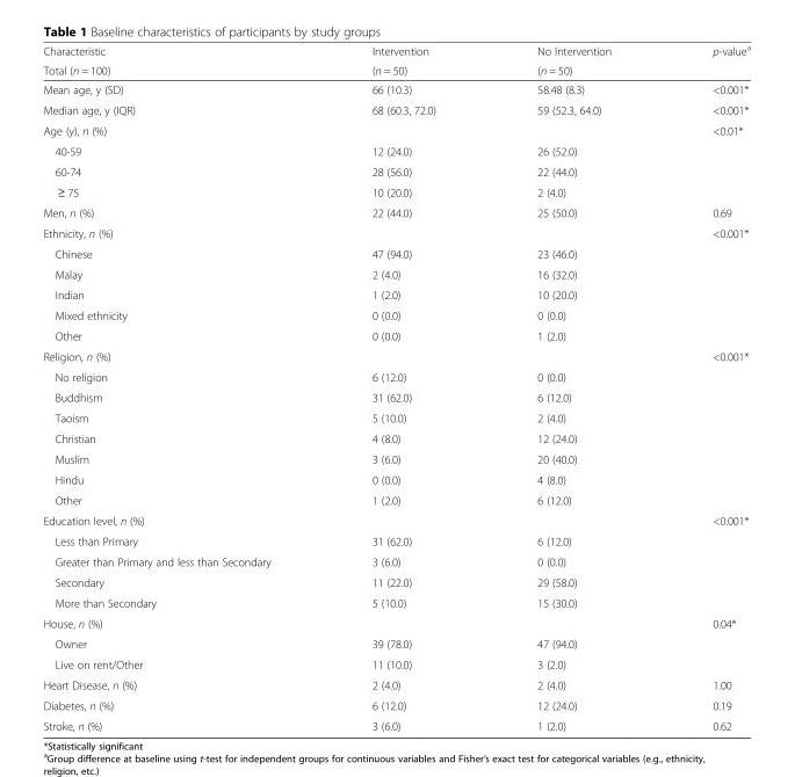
<table><thead><tr><td rowspan="2">Characteristic Total (n = 100)</td><td rowspan="2">Intervention (n = 50)</td><td rowspan="2">No Intervention (n = 50)</td><td rowspan="2">p-value<sup>a</sup></td></tr><tr></tr></thead><tbody><tr><td>Mean age, y (SD)</td><td>66 (10.3)</td><td>58.48 (8.3)</td><td>&lt;0.001*</td></tr><tr><td>Median age, y (IQR)</td><td>68 (60.3, 72.0)</td><td>59 (52.3, 64.0)</td><td>&lt;0.001*</td></tr><tr><td>Age (y), n (%)</td><td></td><td></td><td>&lt;0.01*</td></tr><tr><td>40-59</td><td>12 (24.0)</td><td>26 (52.0)</td><td></td></tr><tr><td>60-74</td><td>28 (56.0)</td><td>22 (44.0)</td><td></td></tr><tr><td>≥ 75</td><td>10 (20.0)</td><td>2 (4.0)</td><td></td></tr><tr><td>Men, n (%)</td><td>22 (44.0)</td><td>25 (50.0)</td><td>0.69</td></tr><tr><td>Ethnicity, n (%)</td><td></td><td></td><td>&lt;0.001*</td></tr><tr><td>Chinese</td><td>47 (94.0)</td><td>23 (46.0)</td><td rowspan="5"></td></tr><tr><td>Malay</td><td>2 (4.0)</td><td>16 (32.0)</td></tr><tr><td>Indian</td><td>1 (2.0)</td><td>10 (20.0)</td></tr><tr><td>Mixed ethnicity</td><td>0 (0.0)</td><td>0 (0.0)</td></tr><tr><td>Other</td><td>0 (0.0)</td><td>1 (2.0)</td></tr><tr><td>Religion, n (%)</td><td></td><td></td><td>&lt;0.001*</td></tr><tr><td>No religion</td><td>6 (12.0)</td><td>0 (0.0)</td><td rowspan="7"></td></tr><tr><td>Buddhism</td><td>31 (62.0)</td><td>6 (12.0)</td></tr><tr><td>Taoism</td><td>5 (10.0)</td><td>2 (4.0)</td></tr><tr><td>Christian</td><td>4 (8.0)</td><td>12 (24.0)</td></tr><tr><td>Muslim</td><td>3 (6.0)</td><td>20 (40.0)</td></tr><tr><td>Hindu</td><td>0 (0.0)</td><td>4 (8.0)</td></tr><tr><td>Other</td><td>1 (2.0)</td><td>6 (12.0)</td></tr><tr><td>Education level, n (%)</td><td></td><td></td><td>&lt;0.001*</td></tr><tr><td>Less than Primary</td><td>31 (62.0)</td><td>6 (12.0)</td><td rowspan="4"></td></tr><tr><td>Greater than Primary and less than Secondary</td><td>3 (6.0)</td><td>0 (0.0)</td></tr><tr><td>Secondary</td><td>11 (22.0)</td><td>29 (58.0)</td></tr><tr><td>More than Secondary</td><td>5 (10.0)</td><td>15 (30.0)</td></tr><tr><td>House, n (%)</td><td></td><td></td><td>0.04*</td></tr><tr><td>Owner</td><td>39 (78.0)</td><td>47 (94.0)</td><td rowspan="2"></td></tr><tr><td>Live on rent/Other</td><td>11 (10.0)</td><td>3 (2.0)</td></tr><tr><td>Heart Disease, n (%)</td><td>2 (4.0)</td><td>2 (4.0)</td><td>1.00</td></tr><tr><td>Diabetes, n (%)</td><td>6 (12.0)</td><td>12 (24.0)</td><td>0.19</td></tr><tr><td>Stroke, n (%)</td><td>3 (6.0)</td><td>1 (2.0)</td><td>0.62</td></tr></tbody></table>